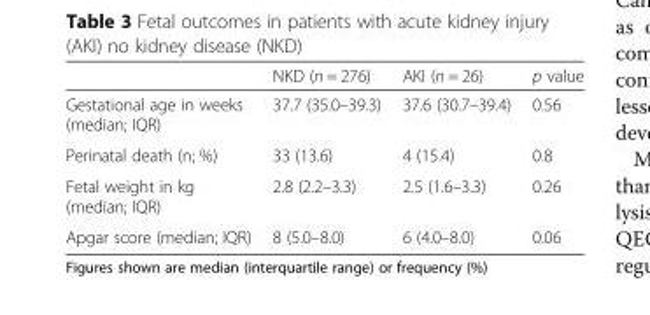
<table><thead><tr><td></td><td>NKD (n = 276)</td><td>AKI (n = 26)</td><td>p value</td></tr></thead><tbody><tr><td>Gestational age in weeks (median; IQR)</td><td>37.7 (35.0–39.3)</td><td>37.6 (30.7–39.4)</td><td>0.56</td></tr><tr><td>Perinatal death (n; %)</td><td>33 (13.6)</td><td>4 (15.4)</td><td>0.8</td></tr><tr><td>Fetal weight in kg (median; IQR)</td><td>2.8 (2.2–3.3)</td><td>2.5 (1.6–3.3)</td><td>0.26</td></tr><tr><td>Apgar score (median; IQR)</td><td>8 (5.0–8.0)</td><td>6 (4.0–8.0)</td><td>0.06</td></tr></tbody></table>